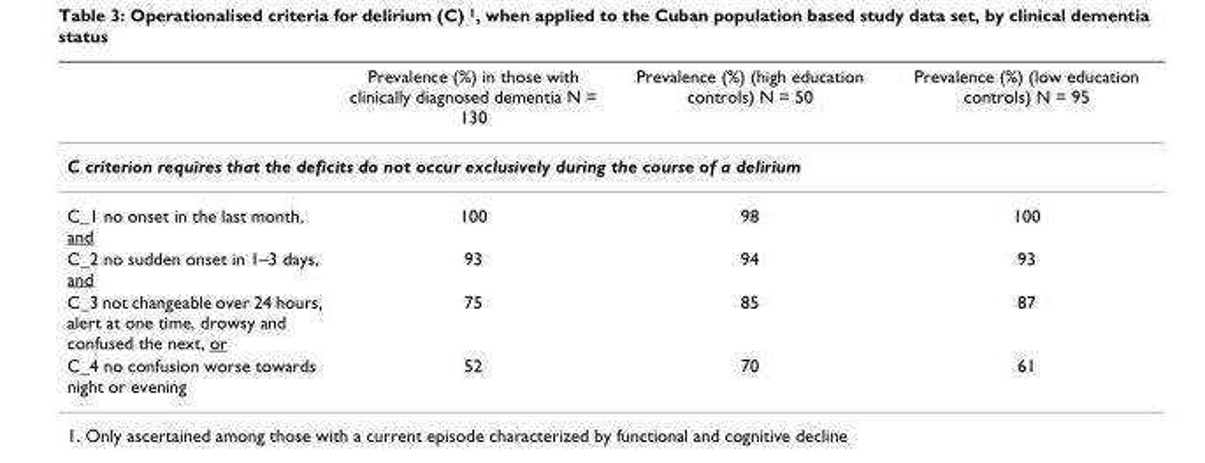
<table><thead><tr><td></td><td>Prevalence (%) in those with clinically diagnosed dementia N = 130</td><td>Prevalence (%) (high education controls) N = 50</td><td>Prevalence (%) (low education controls) N = 95</td></tr></thead><tbody><tr><td colspan="4">C criterion requires that the deficits do not occur exclusively during the course of a delirium</td></tr><tr><td>C_1 no onset in the last month, and</td><td>100</td><td>98</td><td>100</td></tr><tr><td>C_2 no sudden onset in 1–3 days, and</td><td>93</td><td>94</td><td>93</td></tr><tr><td>C_3 not changeable over 24 hours, alert at one time, drowsy and confused the next, or</td><td>75</td><td>85</td><td>87</td></tr><tr><td>C_4 no confusion worse towards night or evening</td><td>52</td><td>70</td><td>61</td></tr></tbody></table>